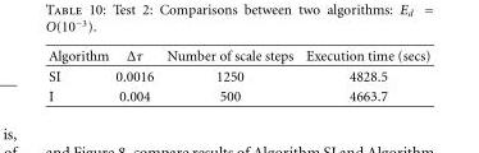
<table><thead><tr><td>Algorithm</td><td>Δτ</td><td>Number of scale steps</td><td>Execution time (secs)</td></tr></thead><tbody><tr><td>SI</td><td>0.0016</td><td>1250</td><td>4828.5</td></tr><tr><td>I</td><td>0.004</td><td>500</td><td>4663.7</td></tr></tbody></table>